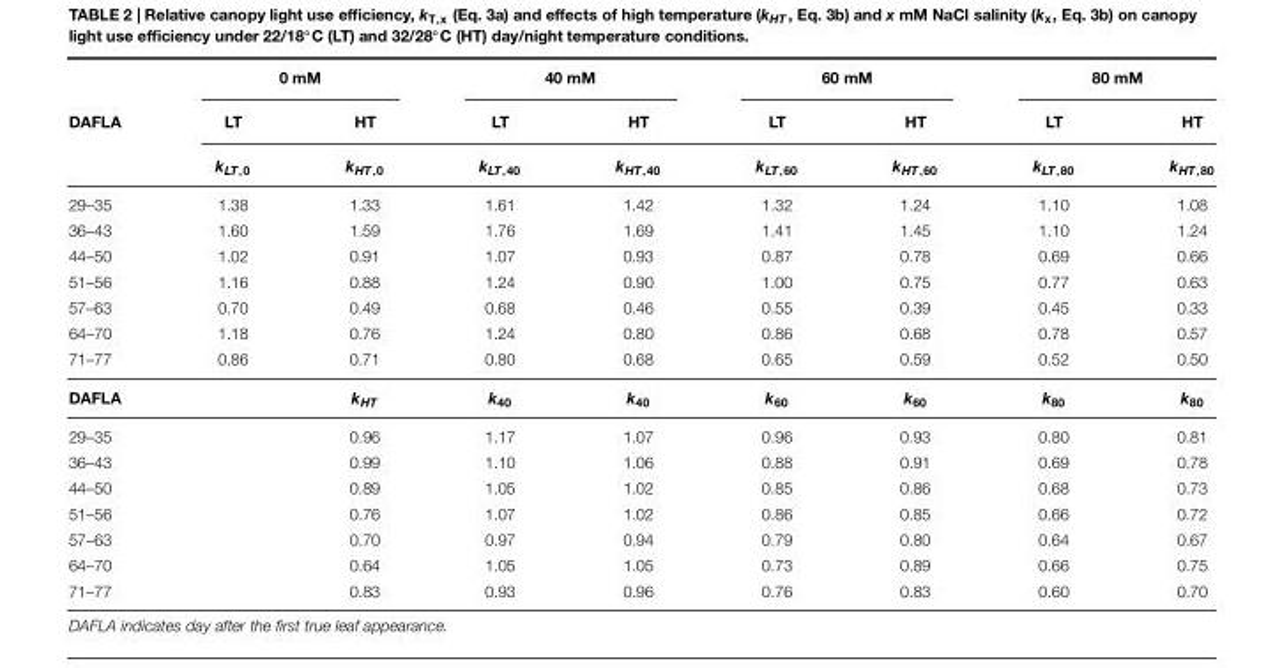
<table><thead><tr><td rowspan="3">DAFLA</td><td colspan="2">0 mM</td><td colspan="2">40 mM</td><td colspan="2">60 mM</td><td colspan="2">80 mM</td></tr><tr><td rowspan="2">LT k<sub>LT,0</sub></td><td rowspan="2">HT k<sub>HT,0</sub></td><td rowspan="2">LT k<sub>LT,40</sub></td><td rowspan="2">HT k<sub>HT,40</sub></td><td rowspan="2">LT k<sub>LT,60</sub></td><td rowspan="2">HT k<sub>HT,60</sub></td><td rowspan="2">LT k<sub>LT,80</sub></td><td rowspan="2">HT k<sub>HT,80</sub></td></tr><tr></tr></thead><tbody><tr><td>29–35</td><td>1.38</td><td>1.33</td><td>1.61</td><td>1.42</td><td>1.32</td><td>1.24</td><td>1.10</td><td>1.08</td></tr><tr><td>36–43</td><td>1.60</td><td>1.59</td><td>1.76</td><td>1.69</td><td>1.41</td><td>1.45</td><td>1.10</td><td>1.24</td></tr><tr><td>44–50</td><td>1.02</td><td>0.91</td><td>1.07</td><td>0.93</td><td>0.87</td><td>0.78</td><td>0.69</td><td>0.66</td></tr><tr><td>51–56</td><td>1.16</td><td>0.88</td><td>1.24</td><td>0.90</td><td>1.00</td><td>0.75</td><td>0.77</td><td>0.63</td></tr><tr><td>57–63</td><td>0.70</td><td>0.49</td><td>0.68</td><td>0.46</td><td>0.55</td><td>0.39</td><td>0.45</td><td>0.33</td></tr><tr><td>64–70</td><td>1.18</td><td>0.76</td><td>1.24</td><td>0.80</td><td>0.86</td><td>0.68</td><td>0.78</td><td>0.57</td></tr><tr><td>71–77</td><td>0.86</td><td>0.71</td><td>0.80</td><td>0.68</td><td>0.65</td><td>0.59</td><td>0.52</td><td>0.50</td></tr><tr><td>DAFLA</td><td></td><td>k<sub>HT</sub></td><td>k<sub>40</sub></td><td>k<sub>40</sub></td><td>k<sub>60</sub></td><td>k<sub>60</sub></td><td>k<sub>80</sub></td><td>k<sub>80</sub></td></tr><tr><td>29–35</td><td></td><td>0.96</td><td>1.17</td><td>1.07</td><td>0.96</td><td>0.93</td><td>0.80</td><td>0.81</td></tr><tr><td>36–43</td><td></td><td>0.99</td><td>1.10</td><td>1.06</td><td>0.88</td><td>0.91</td><td>0.69</td><td>0.78</td></tr><tr><td>44–50</td><td></td><td>0.89</td><td>1.05</td><td>1.02</td><td>0.85</td><td>0.86</td><td>0.68</td><td>0.73</td></tr><tr><td>51–56</td><td></td><td>0.76</td><td>1.07</td><td>1.02</td><td>0.86</td><td>0.85</td><td>0.66</td><td>0.72</td></tr><tr><td>57–63</td><td></td><td>0.70</td><td>0.97</td><td>0.94</td><td>0.79</td><td>0.80</td><td>0.64</td><td>0.67</td></tr><tr><td>64–70</td><td></td><td>0.64</td><td>1.05</td><td>1.05</td><td>0.73</td><td>0.89</td><td>0.66</td><td>0.75</td></tr><tr><td>71–77</td><td></td><td>0.83</td><td>0.93</td><td>0.96</td><td>0.76</td><td>0.83</td><td>0.60</td><td>0.70</td></tr></tbody></table>